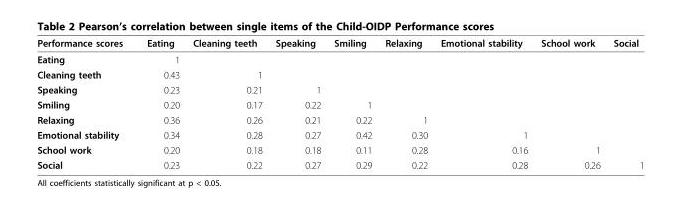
<table><thead><tr><td>Performance scores</td><td>Eating</td><td>Cleaning teeth</td><td>Speaking</td><td>Smiling</td><td>Relaxing</td><td>Emotional stability</td><td>School work</td><td>Social</td></tr></thead><tbody><tr><td>Eating</td><td>1</td><td></td><td></td><td></td><td></td><td></td><td></td><td></td></tr><tr><td>Cleaning teeth</td><td>0.43</td><td>1</td><td></td><td></td><td></td><td></td><td></td><td></td></tr><tr><td>Speaking</td><td>0.23</td><td>0.21</td><td>1</td><td></td><td></td><td></td><td></td><td></td></tr><tr><td>Smiling</td><td>0.20</td><td>0.17</td><td>0.22</td><td>1</td><td></td><td></td><td></td><td></td></tr><tr><td>Relaxing</td><td>0.36</td><td>0.26</td><td>0.21</td><td>0.22</td><td>1</td><td></td><td></td><td></td></tr><tr><td>Emotional stability</td><td>0.34</td><td>0.28</td><td>0.27</td><td>0.42</td><td>0.30</td><td>1</td><td></td><td></td></tr><tr><td>School work</td><td>0.20</td><td>0.18</td><td>0.18</td><td>0.11</td><td>0.28</td><td>0.16</td><td>1</td><td></td></tr><tr><td>Social</td><td>0.23</td><td>0.22</td><td>0.27</td><td>0.29</td><td>0.22</td><td>0.28</td><td>0.26</td><td>1</td></tr></tbody></table>